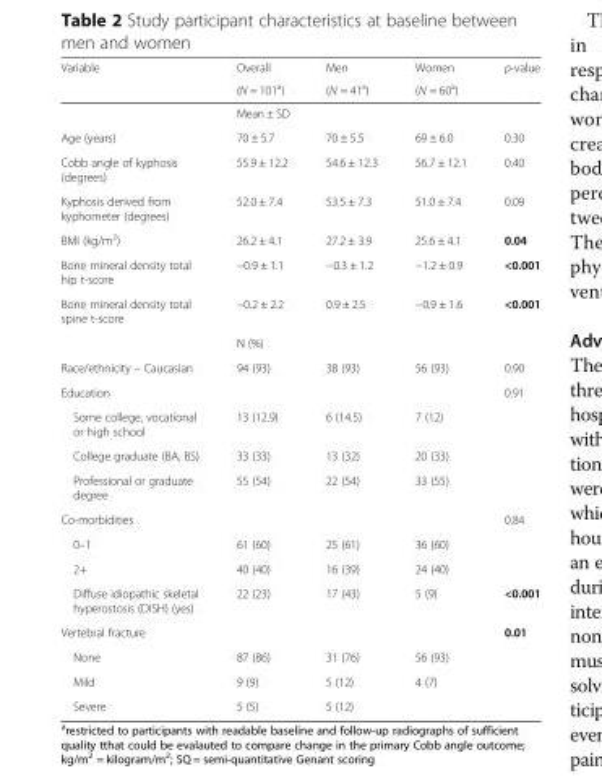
<table><thead><tr><td rowspan="2">Variable</td><td rowspan="2">Overall (N = 101<sup>a</sup>)</td><td rowspan="2">Men (N = 41<sup>a</sup>)</td><td rowspan="2">Women (N = 60<sup>a</sup>)</td><td rowspan="2">p-value</td></tr><tr></tr></thead><tbody><tr><td></td><td colspan="4">Mean ± SD</td></tr><tr><td>Age (years)</td><td>70 ± 5.7</td><td>70 ± 5.5</td><td>69 ± 6.0</td><td>0.30</td></tr><tr><td>Cobb angle of kyphosis (degrees)</td><td>55.9 ± 12.2</td><td>54.6 ± 12.3</td><td>56.7 ± 12.1</td><td>0.40</td></tr><tr><td>Kyphosis derived from kyphometer (degrees)</td><td>52.0 ± 7.4</td><td>53.5 ± 7.3</td><td>51.0 ± 7.4</td><td>0.09</td></tr><tr><td>BMI (kg/m<sup>2</sup>)</td><td>26.2 ± 4.1</td><td>27.2 ± 3.9</td><td>25.6 ± 4.1</td><td>0.04</td></tr><tr><td>Bone mineral density total hip t-score</td><td>−0.9 ± 1.1</td><td>−0.3 ± 1.2</td><td>−1.2 ± 0.9</td><td>&lt;0.001</td></tr><tr><td rowspan="2">Bone mineral density total spine t-score</td><td>−0.2 ± 2.2</td><td>0.9 ± 2.5</td><td>−0.9 ± 1.6</td><td>&lt;0.001</td></tr><tr><td colspan="4">N (%)</td></tr><tr><td>Race/ethnicity – Caucasian</td><td>94 (93)</td><td>38 (93)</td><td>56 (93)</td><td>0.90</td></tr><tr><td>Education</td><td></td><td></td><td></td><td>0.91</td></tr><tr><td>Some college, vocational or high school</td><td>13 (12.9)</td><td>6 (14.5)</td><td>7 (12)</td><td></td></tr><tr><td>College graduate (BA, BS)</td><td>33 (33)</td><td>13 (32)</td><td>20 (33)</td><td></td></tr><tr><td>Professional or graduate degree</td><td>55 (54)</td><td>22 (54)</td><td>33 (55)</td><td></td></tr><tr><td>Co-morbidities</td><td></td><td></td><td></td><td>0.84</td></tr><tr><td>0–1</td><td>61 (60)</td><td>25 (61)</td><td>36 (60)</td><td></td></tr><tr><td>2+</td><td>40 (40)</td><td>16 (39)</td><td>24 (40)</td><td></td></tr><tr><td>Diffuse idiopathic skeletal hyperostosis (DISH) (yes)</td><td>22 (23)</td><td>17 (43)</td><td>5 (9)</td><td>&lt;0.001</td></tr><tr><td>Vertebral fracture</td><td></td><td></td><td></td><td>0.01</td></tr><tr><td>None</td><td>87 (86)</td><td>31 (76)</td><td>56 (93)</td><td></td></tr><tr><td>Mild</td><td>9 (9)</td><td>5 (12)</td><td>4 (7)</td><td></td></tr><tr><td>Severe</td><td>5 (5)</td><td>5 (12)</td><td></td><td></td></tr></tbody></table>